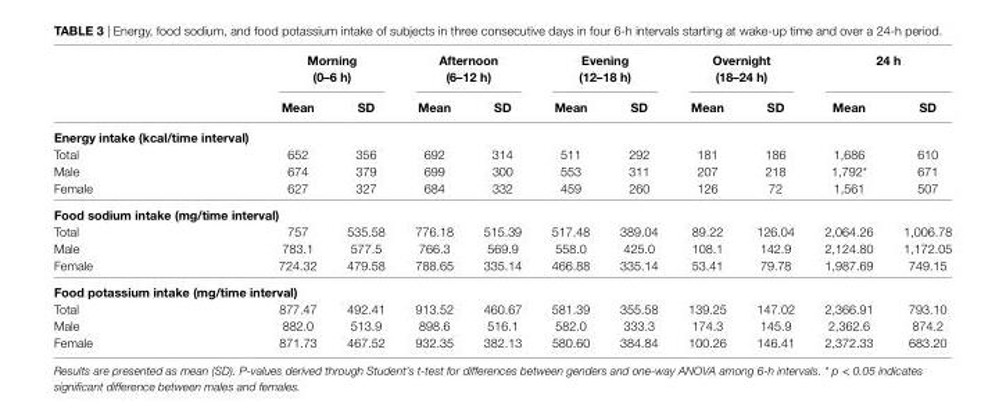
<table><thead><tr><td rowspan="2"></td><td colspan="2">Morning (0–6 h)</td><td colspan="2">afternoon (6–12 h)</td><td colspan="2">evening (12–18 h)</td><td colspan="2">Overnight (18–24 h)</td><td colspan="2">24 h</td></tr><tr><td>Mean</td><td>sD</td><td>Mean</td><td>sD</td><td>Mean</td><td>sD</td><td>Mean</td><td>sD</td><td>Mean</td><td>sD</td></tr></thead><tbody><tr><td colspan="11">energy intake (kcal/time interval)</td></tr><tr><td>Total</td><td>652</td><td>356</td><td>692</td><td>314</td><td>511</td><td>292</td><td>181</td><td>186</td><td>1,686</td><td>610</td></tr><tr><td>Male</td><td>674</td><td>379</td><td>699</td><td>300</td><td>553</td><td>311</td><td>207</td><td>218</td><td>1,792*</td><td>671</td></tr><tr><td>Female</td><td>627</td><td>327</td><td>684</td><td>332</td><td>459</td><td>260</td><td>126</td><td>72</td><td>1,561</td><td>507</td></tr><tr><td colspan="11">Food sodium intake (mg/time interval)</td></tr><tr><td>Total</td><td>757</td><td>535.58</td><td>776.18</td><td>515.39</td><td>517.48</td><td>389.04</td><td>89.22</td><td>126.04</td><td>2,064.26</td><td>1,006.78</td></tr><tr><td>Male</td><td>783.1</td><td>577.5</td><td>766.3</td><td>569.9</td><td>558.0</td><td>425.0</td><td>108.1</td><td>142.9</td><td>2,124.80</td><td>1,172.05</td></tr><tr><td>Female</td><td>724.32</td><td>479.58</td><td>788.65</td><td>335.14</td><td>466.88</td><td>335.14</td><td>53.41</td><td>79.78</td><td>1,987.69</td><td>749.15</td></tr><tr><td colspan="11">Food potassium intake (mg/time interval)</td></tr><tr><td>Total</td><td>877.47</td><td>492.41</td><td>913.52</td><td>460.67</td><td>581.39</td><td>355.58</td><td>139.25</td><td>147.02</td><td>2,366.91</td><td>793.10</td></tr><tr><td>Male</td><td>882.0</td><td>513.9</td><td>898.6</td><td>516.1</td><td>582.0</td><td>333.3</td><td>174.3</td><td>145.9</td><td>2,362.6</td><td>874.2</td></tr><tr><td>Female</td><td>871.73</td><td>467.52</td><td>932.35</td><td>382.13</td><td>580.60</td><td>384.84</td><td>100.26</td><td>146.41</td><td>2,372.33</td><td>683.20</td></tr></tbody></table>